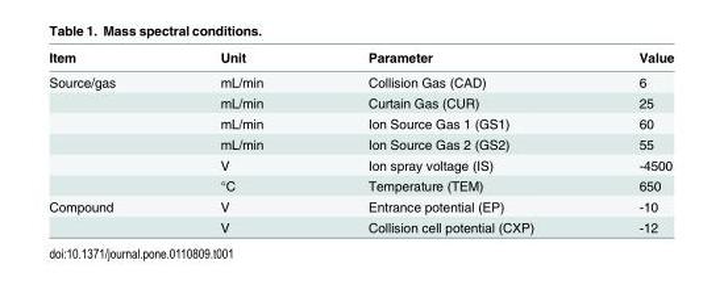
<table><thead><tr><td>Item</td><td>Unit</td><td>Parameter</td><td>Value</td></tr></thead><tbody><tr><td rowspan="6">Source/gas</td><td>mL/min</td><td>Collision Gas (CAD)</td><td>6</td></tr><tr><td>mL/min</td><td>Curtain Gas (CUR)</td><td>25</td></tr><tr><td>mL/min</td><td>Ion Source Gas 1 (GS1)</td><td>60</td></tr><tr><td>mL/min</td><td>Ion Source Gas 2 (GS2)</td><td>55</td></tr><tr><td>V</td><td>Ion spray voltage (IS)</td><td>-4500</td></tr><tr><td>°C</td><td>Temperature (TEM)</td><td>650</td></tr><tr><td rowspan="2">Compound</td><td>V</td><td>Entrance potential (EP)</td><td>-10</td></tr><tr><td>V</td><td>Collision cell potential (CXP)</td><td>-12</td></tr></tbody></table>